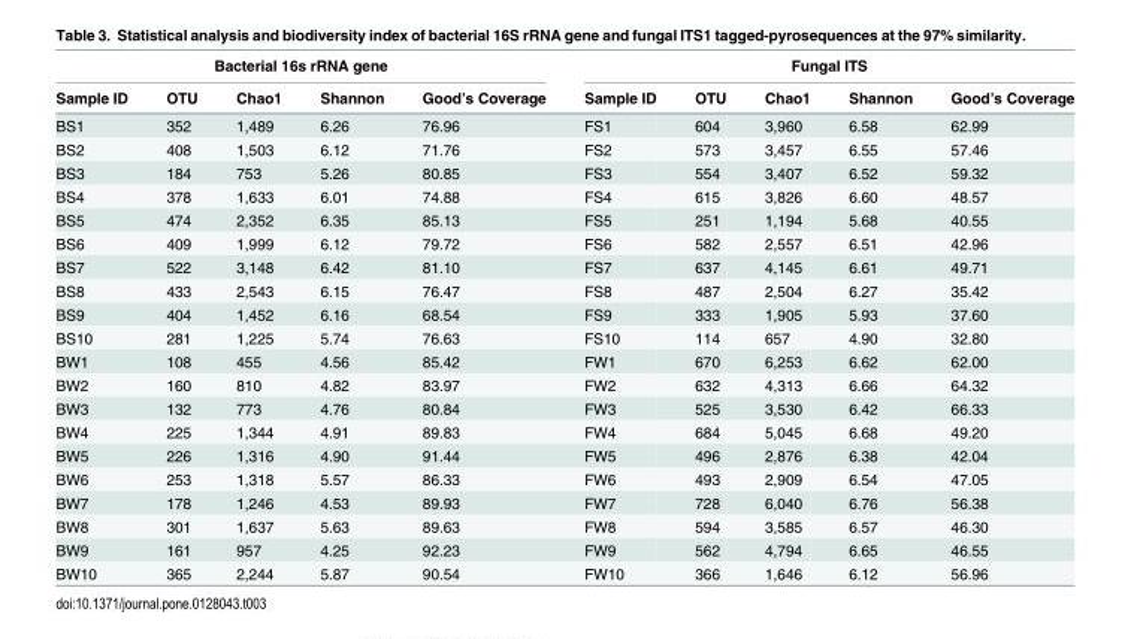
<table><thead><tr><td colspan="5">Bacterial 16s rRNA gene</td><td colspan="5">Fungal ITS</td></tr><tr><td>Sample ID</td><td>OTU</td><td>Chao1</td><td>Shannon</td><td>Good’s Coverage</td><td>Sample ID</td><td>OTU</td><td>Chao1</td><td>Shannon</td><td>Good’s Coverage</td></tr></thead><tbody><tr><td>BS1</td><td>352</td><td>1,489</td><td>6.26</td><td>76.96</td><td>FS1</td><td>604</td><td>3,960</td><td>6.58</td><td>62.99</td></tr><tr><td>BS2</td><td>408</td><td>1,503</td><td>6.12</td><td>71.76</td><td>FS2</td><td>573</td><td>3,457</td><td>6.55</td><td>57.46</td></tr><tr><td>BS3</td><td>184</td><td>753</td><td>5.26</td><td>80.85</td><td>FS3</td><td>554</td><td>3,407</td><td>6.52</td><td>59.32</td></tr><tr><td>BS4</td><td>378</td><td>1,633</td><td>6.01</td><td>74.88</td><td>FS4</td><td>615</td><td>3,826</td><td>6.60</td><td>48.57</td></tr><tr><td>BS5</td><td>474</td><td>2,352</td><td>6.35</td><td>85.13</td><td>FS5</td><td>251</td><td>1,194</td><td>5.68</td><td>40.55</td></tr><tr><td>BS6</td><td>409</td><td>1,999</td><td>6.12</td><td>79.72</td><td>FS6</td><td>582</td><td>2,557</td><td>6.51</td><td>42.96</td></tr><tr><td>BS7</td><td>522</td><td>3,148</td><td>6.42</td><td>81.10</td><td>FS7</td><td>637</td><td>4,145</td><td>6.61</td><td>49.71</td></tr><tr><td>BS8</td><td>433</td><td>2,543</td><td>6.15</td><td>76.47</td><td>FS8</td><td>487</td><td>2,504</td><td>6.27</td><td>35.42</td></tr><tr><td>BS9</td><td>404</td><td>1,452</td><td>6.16</td><td>68.54</td><td>FS9</td><td>333</td><td>1,905</td><td>5.93</td><td>37.60</td></tr><tr><td>BS10</td><td>281</td><td>1,225</td><td>5.74</td><td>76.63</td><td>FS10</td><td>114</td><td>657</td><td>4.90</td><td>32.80</td></tr><tr><td>BW1</td><td>108</td><td>455</td><td>4.56</td><td>85.42</td><td>FW1</td><td>670</td><td>6,253</td><td>6.62</td><td>62.00</td></tr><tr><td>BW2</td><td>160</td><td>810</td><td>4.82</td><td>83.97</td><td>FW2</td><td>632</td><td>4,313</td><td>6.66</td><td>64.32</td></tr><tr><td>BW3</td><td>132</td><td>773</td><td>4.76</td><td>80.84</td><td>FW3</td><td>525</td><td>3,530</td><td>6.42</td><td>66.33</td></tr><tr><td>BW4</td><td>225</td><td>1,344</td><td>4.91</td><td>89.83</td><td>FW4</td><td>684</td><td>5,045</td><td>6.68</td><td>49.20</td></tr><tr><td>BW5</td><td>226</td><td>1,316</td><td>4.90</td><td>91.44</td><td>FW5</td><td>496</td><td>2,876</td><td>6.38</td><td>42.04</td></tr><tr><td>BW6</td><td>253</td><td>1,318</td><td>5.57</td><td>86.33</td><td>FW6</td><td>493</td><td>2,909</td><td>6.54</td><td>47.05</td></tr><tr><td>BW7</td><td>178</td><td>1,246</td><td>4.53</td><td>89.93</td><td>FW7</td><td>728</td><td>6,040</td><td>6.76</td><td>56.38</td></tr><tr><td>BW8</td><td>301</td><td>1,637</td><td>5.63</td><td>89.63</td><td>FW8</td><td>594</td><td>3,585</td><td>6.57</td><td>46.30</td></tr><tr><td>BW9</td><td>161</td><td>957</td><td>4.25</td><td>92.23</td><td>FW9</td><td>562</td><td>4,794</td><td>6.65</td><td>46.55</td></tr><tr><td>BW10</td><td>365</td><td>2,244</td><td>5.87</td><td>90.54</td><td>FW10</td><td>366</td><td>1,646</td><td>6.12</td><td>56.96</td></tr></tbody></table>